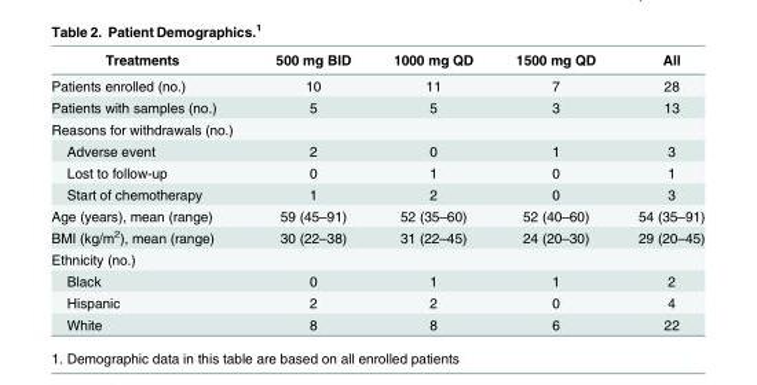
<table><thead><tr><td>Treatments</td><td>500 mg BID</td><td>1000 mg QD</td><td>1500 mg QD</td><td>All</td></tr></thead><tbody><tr><td>Patients enrolled (no.)</td><td>10</td><td>11</td><td>7</td><td>28</td></tr><tr><td>Patients with samples (no.)</td><td>5</td><td>5</td><td>3</td><td>13</td></tr><tr><td colspan="5">Reasons for withdrawals (no.)</td></tr><tr><td>Adverse event</td><td>2</td><td>0</td><td>1</td><td>3</td></tr><tr><td>Lost to follow-up</td><td>0</td><td>1</td><td>0</td><td>1</td></tr><tr><td>Start of chemotherapy</td><td>1</td><td>2</td><td>0</td><td>3</td></tr><tr><td>Age (years), mean (range)</td><td>59 (45–91)</td><td>52 (35–60)</td><td>52 (40–60)</td><td>54 (35–91)</td></tr><tr><td>BMI (kg/m<sup>2</sup>), mean (range)</td><td>30 (22–38)</td><td>31 (22–45)</td><td>24 (20–30)</td><td>29 (20–45)</td></tr><tr><td colspan="5">Ethnicity (no.)</td></tr><tr><td>Black</td><td>0</td><td>1</td><td>1</td><td>2</td></tr><tr><td>Hispanic</td><td>2</td><td>2</td><td>0</td><td>4</td></tr><tr><td>White</td><td>8</td><td>8</td><td>6</td><td>22</td></tr></tbody></table>